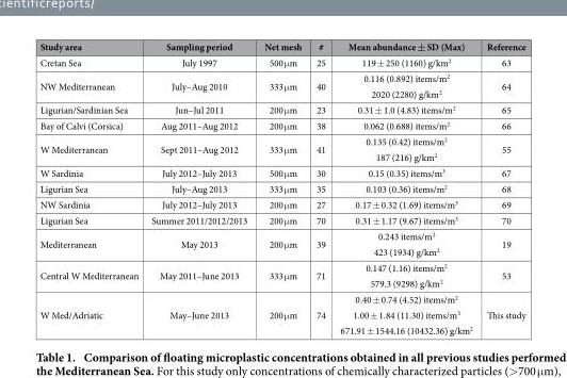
<table><thead><tr><td>Study area</td><td>Sampling period</td><td>Net mesh</td><td>#</td><td>Mean abundance ± SD (Max)</td><td>Reference</td></tr></thead><tbody><tr><td>Cretan Sea</td><td>July 1997</td><td>500 μ m</td><td>25</td><td>119 ± 250 (1160) g/km<sup>2</sup></td><td>63</td></tr><tr><td rowspan="2">NW Mediterranean</td><td rowspan="2">July–Aug 2010</td><td rowspan="2">333 μ m</td><td rowspan="2">40</td><td>0.116 (0.892) items/m<sup>2</sup></td><td rowspan="2">64</td></tr><tr><td>2020 (2280) g/km<sup>2</sup></td></tr><tr><td>Ligurian/Sardinian Sea</td><td>Jun–Jul 2011</td><td>200 μ m</td><td>23</td><td>0.31 ± 1.0 (4.83) items/m<sup>2</sup></td><td>65</td></tr><tr><td>Bay of Calvi (Corsica)</td><td>Aug 2011–Aug 2012</td><td>200 μ m</td><td>38</td><td>0.062 (0.688) items/m<sup>2</sup></td><td>66</td></tr><tr><td rowspan="2">W Mediterranean</td><td rowspan="2">Sept 2011–Aug 2012</td><td rowspan="2">333 μ m</td><td rowspan="2">41</td><td>0.135 (0.42) items/m<sup>2</sup></td><td rowspan="2">55</td></tr><tr><td>187 (216) g/km<sup>2</sup></td></tr><tr><td>W Sardinia</td><td>July 2012–July 2013</td><td>500 μ m</td><td>30</td><td>0.15 (0.35) items/m<sup>3</sup></td><td>67</td></tr><tr><td>Ligurian Sea</td><td>July–Aug 2013</td><td>333 μ m</td><td>35</td><td>0.103 (0.36) items/m<sup>2</sup></td><td>68</td></tr><tr><td>NW Sardinia</td><td>July 2012–July 2013</td><td>200 μ m</td><td>27</td><td>0.17 ± 0.32 (1.69) items/m<sup>3</sup></td><td>69</td></tr><tr><td>Ligurian Sea</td><td>Summer 2011/2012/2013</td><td>200 μ m</td><td>70</td><td>0.31 ± 1.17 (9.67) items/m<sup>3</sup></td><td>70</td></tr><tr><td rowspan="2">Mediterranean</td><td rowspan="2">May 2013</td><td rowspan="2">200 μ m</td><td rowspan="2">39</td><td>0.243 items/m<sup>2</sup></td><td rowspan="2">19</td></tr><tr><td>423 (1934) g/km<sup>2</sup></td></tr><tr><td rowspan="2">Central W Mediterranean</td><td rowspan="2">May 2011–June 2013</td><td rowspan="2">333 μ m</td><td rowspan="2">71</td><td>0.147 (1.16) items/m<sup>2</sup></td><td rowspan="2">53</td></tr><tr><td>579.3 (9298) g/km<sup>2</sup></td></tr><tr><td rowspan="3">W Med/Adriatic</td><td rowspan="3">May–June 2013</td><td rowspan="3">200 μ m</td><td rowspan="3">74</td><td>0.40 ± 0.74 (4.52) items/m<sup>2</sup></td><td rowspan="3">This study</td></tr><tr><td>1.00 ± 1.84 (11.30) items/m<sup>3</sup></td></tr><tr><td>671.91 ± 1544.16 (10432.36) g/km<sup>2</sup></td></tr></tbody></table>